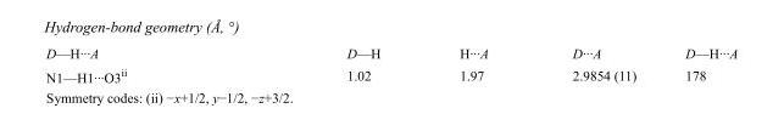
<table><tbody><tr><td>D—H···A</td><td>D—H</td><td>H···A</td><td>D···A</td><td>D—H···A</td></tr><tr><td>N1—H1···O3<sup>ii</sup></td><td>1.02</td><td>1.97</td><td>2.9854 (11)</td><td>178</td></tr></tbody></table>